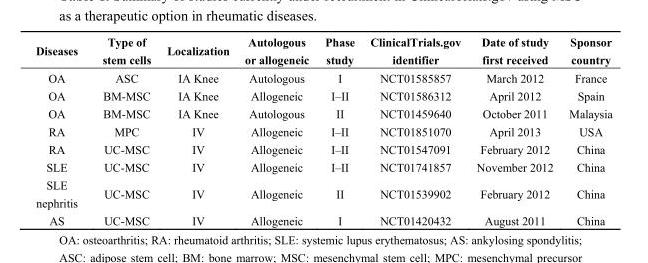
<table><thead><tr><td>Diseases</td><td>Type of stem cells</td><td>Localization</td><td>Autologous or allogeneic</td><td>Phase study</td><td>ClinicalTrials.gov identifier</td><td>Date of study first received</td><td>Sponsor country</td></tr></thead><tbody><tr><td>OA</td><td>ASC</td><td>IA Knee</td><td>Autologous</td><td>I</td><td>NCT01585857</td><td>March 2012</td><td>France</td></tr><tr><td>OA</td><td>BM-MSC</td><td>IA Knee</td><td>Allogeneic</td><td>I–II</td><td>NCT01586312</td><td>April 2012</td><td>Spain</td></tr><tr><td>OA</td><td>BM-MSC</td><td>IA Knee</td><td>Autologous</td><td>II</td><td>NCT01459640</td><td>October 2011</td><td>Malaysia</td></tr><tr><td>RA</td><td>MPC</td><td>IV</td><td>Allogeneic</td><td>I–II</td><td>NCT01851070</td><td>April 2013</td><td>USA</td></tr><tr><td>RA</td><td>UC-MSC</td><td>IV</td><td>Allogeneic</td><td>I–II</td><td>NCT01547091</td><td>February 2012</td><td>China</td></tr><tr><td>SLE</td><td>UC-MSC</td><td>IV</td><td>Allogeneic</td><td>I–II</td><td>NCT01741857</td><td>November 2012</td><td>China</td></tr><tr><td>SLE nephritis</td><td>UC-MSC</td><td>IV</td><td>Allogeneic</td><td>II</td><td>NCT01539902</td><td>February 2012</td><td>China</td></tr><tr><td>AS</td><td>UC-MSC</td><td>IV</td><td>Allogeneic</td><td>I</td><td>NCT01420432</td><td>August 2011</td><td>China</td></tr></tbody></table>